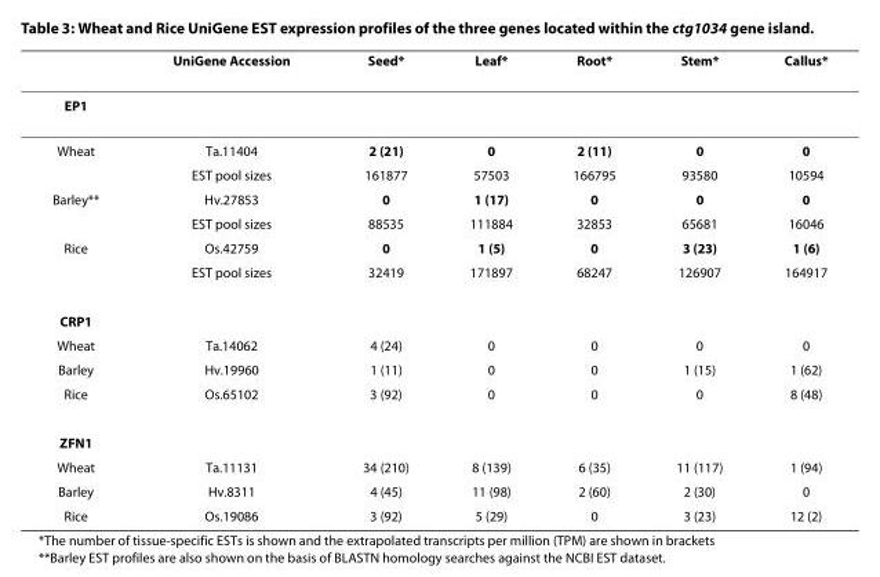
<table><thead><tr><td></td><td>UniGene Accession</td><td>Seed*</td><td>Leaf*</td><td>Root*</td><td>Stem*</td><td>Callus*</td></tr></thead><tbody><tr><td colspan="7">EP1</td></tr><tr><td rowspan="2">Wheat</td><td>Ta.11404</td><td>2 (21)</td><td>0</td><td>2 (11)</td><td>0</td><td>0</td></tr><tr><td>EST pool sizes</td><td>161877</td><td>57503</td><td>166795</td><td>93580</td><td>10594</td></tr><tr><td rowspan="2">Barley**</td><td>Hv.27853</td><td>0</td><td>1 (17)</td><td>0</td><td>0</td><td>0</td></tr><tr><td>EST pool sizes</td><td>88535</td><td>111884</td><td>32853</td><td>65681</td><td>16046</td></tr><tr><td rowspan="2">Rice</td><td>Os.42759</td><td>0</td><td>1 (5)</td><td>0</td><td>3 (23)</td><td>1 (6)</td></tr><tr><td>EST pool sizes</td><td>32419</td><td>171897</td><td>68247</td><td>126907</td><td>164917</td></tr><tr><td colspan="7">CRP1</td></tr><tr><td>Wheat</td><td>Ta.14062</td><td>4 (24)</td><td>0</td><td>0</td><td>0</td><td>0</td></tr><tr><td>Barley</td><td>Hv.19960</td><td>1 (11)</td><td>0</td><td>0</td><td>1 (15)</td><td>1 (62)</td></tr><tr><td>Rice</td><td>Os.65102</td><td>3 (92)</td><td>0</td><td>0</td><td>0</td><td>8 (48)</td></tr><tr><td colspan="7">ZFN1</td></tr><tr><td>Wheat</td><td>Ta.11131</td><td>34 (210)</td><td>8 (139)</td><td>6 (35)</td><td>11 (117)</td><td>1 (94)</td></tr><tr><td>Barley</td><td>Hv.8311</td><td>4 (45)</td><td>11 (98)</td><td>2 (60)</td><td>2 (30)</td><td>0</td></tr><tr><td>Rice</td><td>Os.19086</td><td>3 (92)</td><td>5 (29)</td><td>0</td><td>3 (23)</td><td>12 (2)</td></tr></tbody></table>